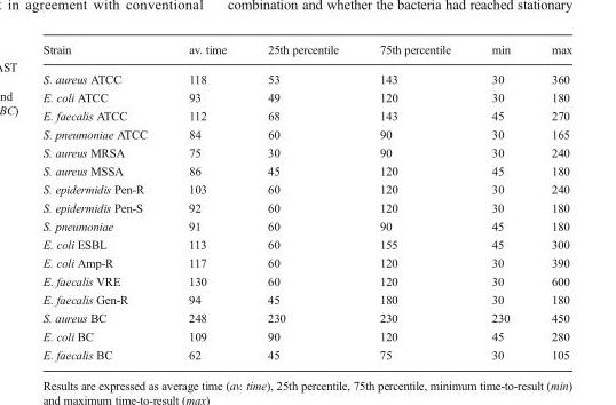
<table><thead><tr><td>Strain</td><td>av. time</td><td>25th percentile</td><td>75th percentile</td><td>min</td><td>max</td></tr></thead><tbody><tr><td>S. aureus ATCC</td><td>118</td><td>53</td><td>143</td><td>30</td><td>360</td></tr><tr><td>E. coli ATCC</td><td>93</td><td>49</td><td>120</td><td>30</td><td>180</td></tr><tr><td>E. faecalis ATCC</td><td>112</td><td>68</td><td>143</td><td>45</td><td>270</td></tr><tr><td>S. pneumoniae ATCC</td><td>84</td><td>60</td><td>90</td><td>30</td><td>165</td></tr><tr><td>S. aureus MRSA</td><td>75</td><td>30</td><td>90</td><td>30</td><td>240</td></tr><tr><td>S. aureus MSSA</td><td>86</td><td>45</td><td>120</td><td>45</td><td>180</td></tr><tr><td>S. epidermidis Pen-R</td><td>103</td><td>60</td><td>120</td><td>30</td><td>240</td></tr><tr><td>S. epidermidis Pen-S</td><td>92</td><td>60</td><td>120</td><td>30</td><td>180</td></tr><tr><td>S. pneumoniae</td><td>91</td><td>60</td><td>90</td><td>45</td><td>180</td></tr><tr><td>E. coli ESBL</td><td>113</td><td>60</td><td>155</td><td>45</td><td>300</td></tr><tr><td>E. coli Amp-R</td><td>117</td><td>60</td><td>120</td><td>30</td><td>390</td></tr><tr><td>E. faecalis VRE</td><td>130</td><td>60</td><td>120</td><td>30</td><td>600</td></tr><tr><td>E. faecalis Gen-R</td><td>94</td><td>45</td><td>180</td><td>30</td><td>180</td></tr><tr><td>S. aureus BC</td><td>248</td><td>230</td><td>230</td><td>230</td><td>450</td></tr><tr><td>E. coli BC</td><td>109</td><td>90</td><td>120</td><td>45</td><td>280</td></tr><tr><td>E. faecalis BC</td><td>62</td><td>45</td><td>75</td><td>30</td><td>105</td></tr></tbody></table>